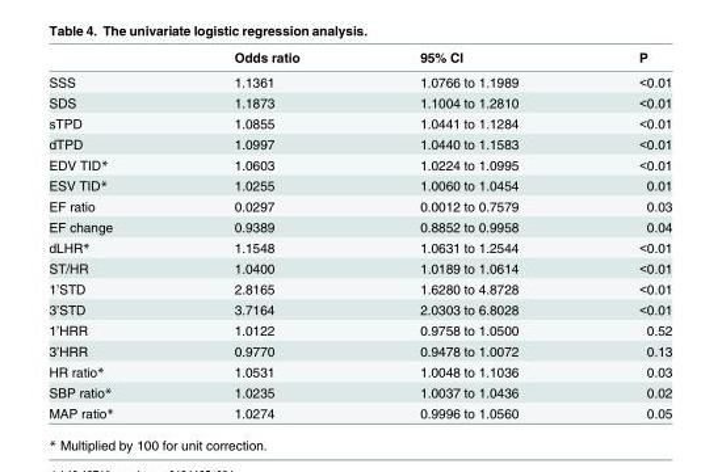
<table><thead><tr><td></td><td>Odds ratio</td><td>95% CI</td><td>P</td></tr></thead><tbody><tr><td>SSS</td><td>1.1361</td><td>1.0766 to 1.1989</td><td>&lt;0.01</td></tr><tr><td>SDS</td><td>1.1873</td><td>1.1004 to 1.2810</td><td>&lt;0.01</td></tr><tr><td>sTPD</td><td>1.0855</td><td>1.0441 to 1.1284</td><td>&lt;0.01</td></tr><tr><td>dTPD</td><td>1.0997</td><td>1.0440 to 1.1583</td><td>&lt;0.01</td></tr><tr><td>EDV TID*</td><td>1.0603</td><td>1.0224 to 1.0995</td><td>&lt;0.01</td></tr><tr><td>ESV TID*</td><td>1.0255</td><td>1.0060 to 1.0454</td><td>0.01</td></tr><tr><td>EF ratio</td><td>0.0297</td><td>0.0012 to 0.7579</td><td>0.03</td></tr><tr><td>EF change</td><td>0.9389</td><td>0.8852 to 0.9958</td><td>0.04</td></tr><tr><td>dLHR*</td><td>1.1548</td><td>1.0631 to 1.2544</td><td>&lt;0.01</td></tr><tr><td>ST/HR</td><td>1.0400</td><td>1.0189 to 1.0614</td><td>&lt;0.01</td></tr><tr><td>1’STD</td><td>2.8165</td><td>1.6280 to 4.8728</td><td>&lt;0.01</td></tr><tr><td>3’STD</td><td>3.7164</td><td>2.0303 to 6.8028</td><td>&lt;0.01</td></tr><tr><td>1’HRR</td><td>1.0122</td><td>0.9758 to 1.0500</td><td>0.52</td></tr><tr><td>3’HRR</td><td>0.9770</td><td>0.9478 to 1.0072</td><td>0.13</td></tr><tr><td>HR ratio*</td><td>1.0531</td><td>1.0048 to 1.1036</td><td>0.03</td></tr><tr><td>SBP ratio*</td><td>1.0235</td><td>1.0037 to 1.0436</td><td>0.02</td></tr><tr><td>MAP ratio*</td><td>1.0274</td><td>0.9996 to 1.0560</td><td>0.05</td></tr></tbody></table>